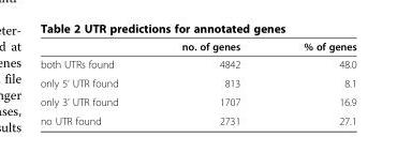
<table><thead><tr><td></td><td>no. of genes</td><td>% of genes</td></tr></thead><tbody><tr><td>both UTRs found</td><td>4842</td><td>48.0</td></tr><tr><td>only 5’ UTR found</td><td>813</td><td>8.1</td></tr><tr><td>only 3’ UTR found</td><td>1707</td><td>16.9</td></tr><tr><td>no UTR found</td><td>2731</td><td>27.1</td></tr></tbody></table>